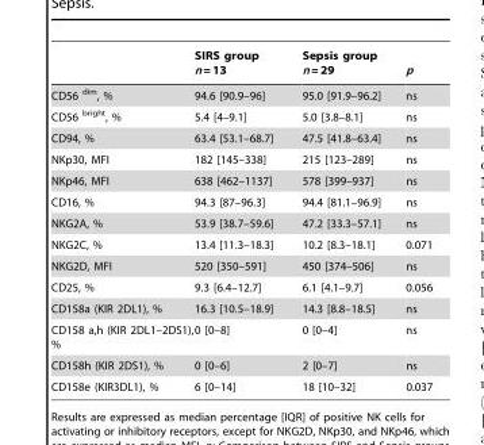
<table><thead><tr><td></td><td>SIRS group n = 13</td><td>Sepsis group n = 29</td><td>p</td></tr></thead><tbody><tr><td>CD56 <sup>dim</sup>, %</td><td>94.6 [90.9–96]</td><td>95.0 [91.9–96.2]</td><td>ns</td></tr><tr><td>CD56 <sup>bright</sup>, %</td><td>5.4 [4–9.1]</td><td>5.0 [3.8–8.1]</td><td>ns</td></tr><tr><td>CD94, %</td><td>63.4 [53.1–68.7]</td><td>47.5 [41.8–63.4]</td><td>ns</td></tr><tr><td>NKp30, MFI</td><td>182 [145–338]</td><td>215 [123–289]</td><td>ns</td></tr><tr><td>NKp46, MFI</td><td>638 [462–1137]</td><td>578 [399–937]</td><td>ns</td></tr><tr><td>CD16, %</td><td>94.3 [87–96.3]</td><td>94.4 [81.1–96.9]</td><td>ns</td></tr><tr><td>NKG2A, %</td><td>53.9 [38.7–59.6]</td><td>47.2 [33.3–57.1]</td><td>ns</td></tr><tr><td>NKG2C, %</td><td>13.4 [11.3–18.3]</td><td>10.2 [8.3–18.1]</td><td>0.071</td></tr><tr><td>NKG2D, MFI</td><td>520 [350–591]</td><td>450 [374–506]</td><td>ns</td></tr><tr><td>CD25, %</td><td>9.3 [6.4–12.7]</td><td>6.1 [4.1–9.7]</td><td>0.056</td></tr><tr><td>CD158a (KIR 2DL1), %</td><td>16.3 [10.5–18.9]</td><td>14.3 [8.8–18.5]</td><td>ns</td></tr><tr><td>CD158 a,h (KIR 2DL1–2DS1), %</td><td>0 [0–8]</td><td>0 [0–4]</td><td>ns</td></tr><tr><td>CD158h (KIR 2DS1), %</td><td>0 [0–6]</td><td>2 [0–7]</td><td>ns</td></tr><tr><td>CD158e (KIR3DL1), %</td><td>6 [0–14]</td><td>18 [10–32]</td><td>0.037</td></tr></tbody></table>